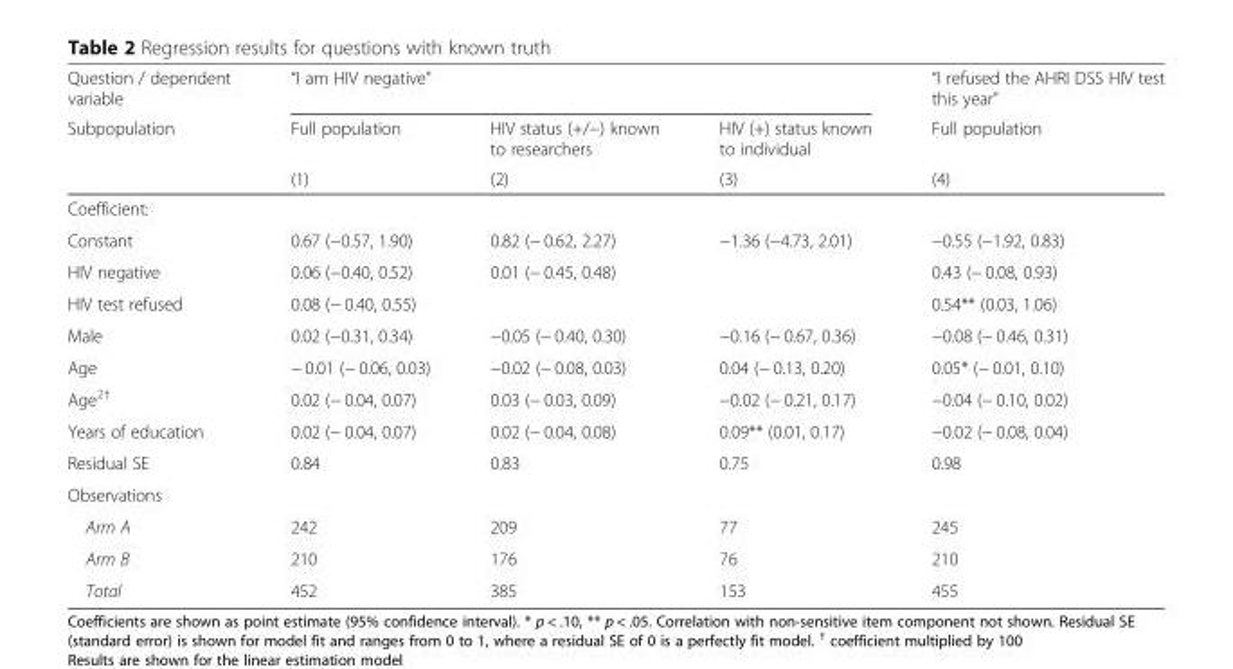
<table><thead><tr><td rowspan="3">Question / dependent variable Subpopulation</td><td colspan="3">“I am HIV negative”</td><td rowspan="3">“I refused the AHRI DSS HIV test this year” Full population (4)</td></tr><tr><td rowspan="2">Full population (1)</td><td rowspan="2">HIV status (+/−) known to researchers (2)</td><td rowspan="2">HIV (+) status known to individual (3)</td></tr><tr></tr></thead><tbody><tr><td colspan="5">Coefficient:</td></tr><tr><td>Constant</td><td>0.67 (−0.57, 1.90)</td><td>0.82 (− 0.62, 2.27)</td><td>−1.36 (−4.73, 2.01)</td><td>−0.55 (−1.92, 0.83)</td></tr><tr><td>HIV negative</td><td>0.06 (−0.40, 0.52)</td><td>0.01 (− 0.45, 0.48)</td><td></td><td>0.43 (− 0.08, 0.93)</td></tr><tr><td>HIV test refused</td><td>0.08 (− 0.40, 0.55)</td><td></td><td></td><td>0.54** (0.03, 1.06)</td></tr><tr><td>Male</td><td>0.02 (−0.31, 0.34)</td><td>−0.05 (− 0.40, 0.30)</td><td>−0.16 (− 0.67, 0.36)</td><td>−0.08 (− 0.46, 0.31)</td></tr><tr><td>Age</td><td>− 0.01 (− 0.06, 0.03)</td><td>−0.02 (− 0.08, 0.03)</td><td>0.04 (− 0.13, 0.20)</td><td>0.05* (− 0.01, 0.10)</td></tr><tr><td>Age<sup>2†</sup></td><td>0.02 (− 0.04, 0.07)</td><td>0.03 (− 0.03, 0.09)</td><td>−0.02 (− 0.21, 0.17)</td><td>−0.04 (− 0.10, 0.02)</td></tr><tr><td>Years of education</td><td>0.02 (− 0.04, 0.07)</td><td>0.02 (− 0.04, 0.08)</td><td>0.09** (0.01, 0.17)</td><td>−0.02 (− 0.08, 0.04)</td></tr><tr><td>Residual SE</td><td>0.84</td><td>0.83</td><td>0.75</td><td>0.98</td></tr><tr><td colspan="5">Observations</td></tr><tr><td>Arm A</td><td>242</td><td>209</td><td>77</td><td>245</td></tr><tr><td>Arm B</td><td>210</td><td>176</td><td>76</td><td>210</td></tr><tr><td>Total</td><td>452</td><td>385</td><td>153</td><td>455</td></tr></tbody></table>